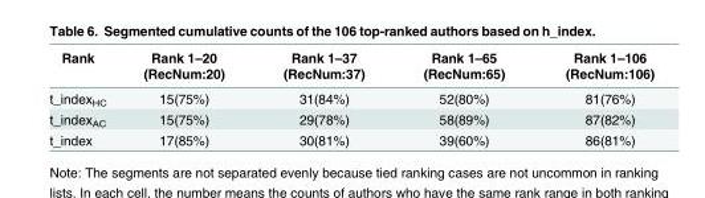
<table><thead><tr><td>Rank</td><td>Rank 1–20 (RecNum:20)</td><td>Rank 1–37 (RecNum:37)</td><td>Rank 1–65 (RecNum:65)</td><td>Rank 1–106 (RecNum:106)</td></tr></thead><tbody><tr><td>t_index<sub>HC</sub></td><td>15(75%)</td><td>31(84%)</td><td>52(80%)</td><td>81(76%)</td></tr><tr><td>t_index<sub>AC</sub></td><td>15(75%)</td><td>29(78%)</td><td>58(89%)</td><td>87(82%)</td></tr><tr><td>t_index</td><td>17(85%)</td><td>30(81%)</td><td>39(60%)</td><td>86(81%)</td></tr></tbody></table>